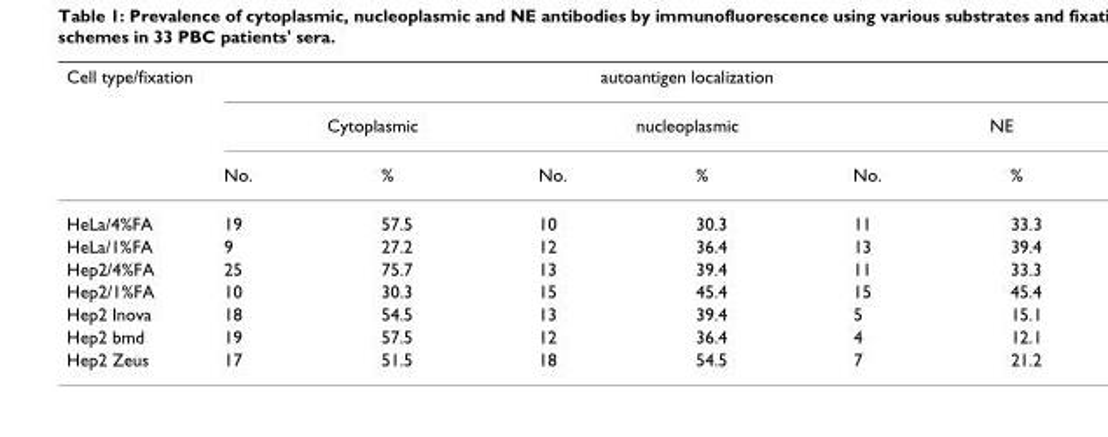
<table><thead><tr><td rowspan="3">Cell type/fixation</td><td colspan="6">autoantigen localization</td></tr><tr><td colspan="2">Cytoplasmic</td><td colspan="2">nucleoplasmic</td><td colspan="2">NE</td></tr><tr><td>No.</td><td>%</td><td>No.</td><td>%</td><td>No.</td><td>%</td></tr></thead><tbody><tr><td>HeLa/4%FA</td><td>19</td><td>57.5</td><td>10</td><td>30.3</td><td>11</td><td>33.3</td></tr><tr><td>HeLa/1%FA</td><td>9</td><td>27.2</td><td>12</td><td>36.4</td><td>13</td><td>39.4</td></tr><tr><td>Hep2/4%FA</td><td>25</td><td>75.7</td><td>13</td><td>39.4</td><td>11</td><td>33.3</td></tr><tr><td>Hep2/1%FA</td><td>10</td><td>30.3</td><td>15</td><td>45.4</td><td>15</td><td>45.4</td></tr><tr><td>Hep2 Inova</td><td>18</td><td>54.5</td><td>13</td><td>39.4</td><td>5</td><td>15.1</td></tr><tr><td>Hep2 bmd</td><td>19</td><td>57.5</td><td>12</td><td>36.4</td><td>4</td><td>12.1</td></tr><tr><td>Hep2 Zeus</td><td>17</td><td>51.5</td><td>18</td><td>54.5</td><td>7</td><td>21.2</td></tr></tbody></table>